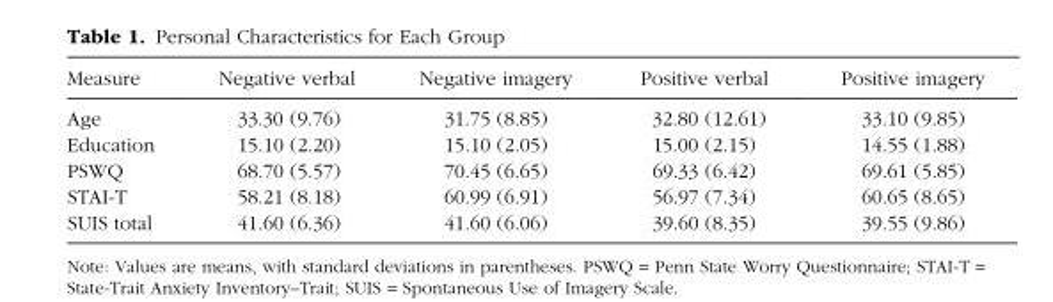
<table><thead><tr><td>Measure</td><td>Negative verbal</td><td>Negative imagery</td><td>Positive verbal</td><td>Positive imagery</td></tr></thead><tbody><tr><td>Age</td><td>33.30 (9.76)</td><td>31.75 (8.85)</td><td>32.80 (12.61)</td><td>33.10 (9.85)</td></tr><tr><td>Education</td><td>15.10 (2.20)</td><td>15.10 (2.05)</td><td>15.00 (2.15)</td><td>14.55 (1.88)</td></tr><tr><td>PSWQ</td><td>68.70 (5.57)</td><td>70.45 (6.65)</td><td>69.33 (6.42)</td><td>69.61 (5.85)</td></tr><tr><td>STAI-T</td><td>58.21 (8.18)</td><td>60.99 (6.91)</td><td>56.97 (7.34)</td><td>60.65 (8.65)</td></tr><tr><td>SUIS total</td><td>41.60 (6.36)</td><td>41.60 (6.06)</td><td>39.60 (8.35)</td><td>39.55 (9.86)</td></tr></tbody></table>